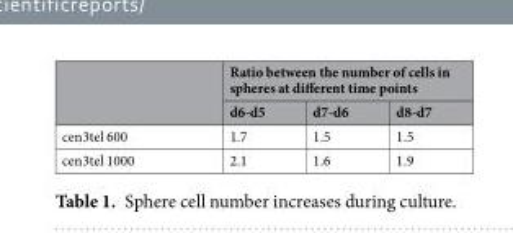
<table><thead><tr><td rowspan="2"></td><td colspan="3">Ratio between the number of cells in spheres at different time points</td></tr><tr><td>d6-d5</td><td>d7-d6</td><td>d8-d7</td></tr></thead><tbody><tr><td>cen3tel 600</td><td>1.7</td><td>1.5</td><td>1.5</td></tr><tr><td>cen3tel 1000</td><td>2.1</td><td>1.6</td><td>1.9</td></tr></tbody></table>